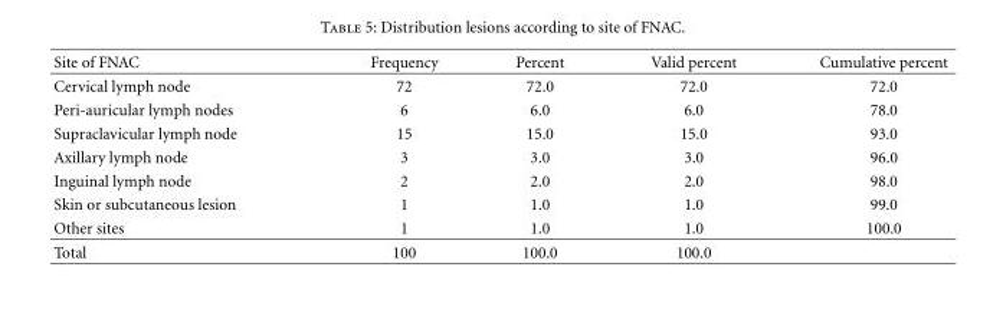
<table><thead><tr><td>Site of FNAC</td><td>Frequency</td><td>Percent</td><td>Valid percent</td><td>Cumulative percent</td></tr></thead><tbody><tr><td>Cervical lymph node</td><td>72</td><td>72.0</td><td>72.0</td><td>72.0</td></tr><tr><td>Peri-auricular lymph nodes</td><td>6</td><td>6.0</td><td>6.0</td><td>78.0</td></tr><tr><td>Supraclavicular lymph node</td><td>15</td><td>15.0</td><td>15.0</td><td>93.0</td></tr><tr><td>Axillary lymph node</td><td>3</td><td>3.0</td><td>3.0</td><td>96.0</td></tr><tr><td>Inguinal lymph node</td><td>2</td><td>2.0</td><td>2.0</td><td>98.0</td></tr><tr><td>Skin or subcutaneous lesion</td><td>1</td><td>1.0</td><td>1.0</td><td>99.0</td></tr><tr><td>Other sites</td><td>1</td><td>1.0</td><td>1.0</td><td>100.0</td></tr><tr><td>Total</td><td>100</td><td>100.0</td><td>100.0</td><td></td></tr></tbody></table>